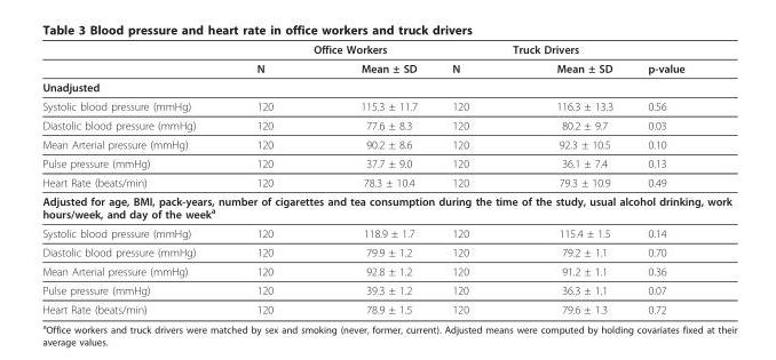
<table><thead><tr><td rowspan="2"></td><td colspan="2">Office Workers</td><td colspan="2">Truck Drivers</td><td rowspan="2">p-value</td></tr><tr><td>N</td><td>Mean ± SD</td><td>N</td><td>Mean ± SD</td></tr></thead><tbody><tr><td colspan="6">Unadjusted</td></tr><tr><td>Systolic blood pressure (mmHg)</td><td>120</td><td>115.3 ± 11.7</td><td>120</td><td>116.3 ± 13.3</td><td>0.56</td></tr><tr><td>Diastolic blood pressure (mmHg)</td><td>120</td><td>77.6 ± 8.3</td><td>120</td><td>80.2 ± 9.7</td><td>0.03</td></tr><tr><td>Mean Arterial pressure (mmHg)</td><td>120</td><td>90.2 ± 8.6</td><td>120</td><td>92.3 ± 10.5</td><td>0.10</td></tr><tr><td>Pulse pressure (mmHg)</td><td>120</td><td>37.7 ± 9.0</td><td>120</td><td>36.1 ± 7.4</td><td>0.13</td></tr><tr><td>Heart Rate (beats/min)</td><td>120</td><td>78.3 ± 10.4</td><td>120</td><td>79.3 ± 10.9</td><td>0.49</td></tr><tr><td colspan="6">Adjusted for age, BMI, pack-years, number of cigarettes and tea consumption during the time of the study, usual alcohol drinking, work hours/week, and day of the weeka</td></tr><tr><td>Systolic blood pressure (mmHg)</td><td>120</td><td>118.9 ± 1.7</td><td>120</td><td>115.4 ± 1.5</td><td>0.14</td></tr><tr><td>Diastolic blood pressure (mmHg)</td><td>120</td><td>79.9 ± 1.2</td><td>120</td><td>79.2 ± 1.1</td><td>0.70</td></tr><tr><td>Mean Arterial pressure (mmHg)</td><td>120</td><td>92.8 ± 1.2</td><td>120</td><td>91.2 ± 1.1</td><td>0.36</td></tr><tr><td>Pulse pressure (mmHg)</td><td>120</td><td>39.3 ± 1.2</td><td>120</td><td>36.3 ± 1.1</td><td>0.07</td></tr><tr><td>Heart Rate (beats/min)</td><td>120</td><td>78.9 ± 1.5</td><td>120</td><td>79.6 ± 1.3</td><td>0.72</td></tr></tbody></table>